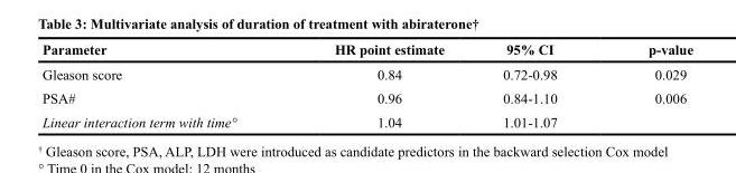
<table><thead><tr><td>Parameter</td><td>HR point estimate</td><td>95% CI</td><td>p-value</td></tr></thead><tbody><tr><td>Gleason score</td><td>0.84</td><td>0.72-0.98</td><td>0.029</td></tr><tr><td>PSA<sup>#</sup></td><td>0.96</td><td>0.84-1.10</td><td>0.006</td></tr><tr><td>Linear interaction term with time°</td><td>1.04</td><td>1.01-1.07</td><td></td></tr></tbody></table>